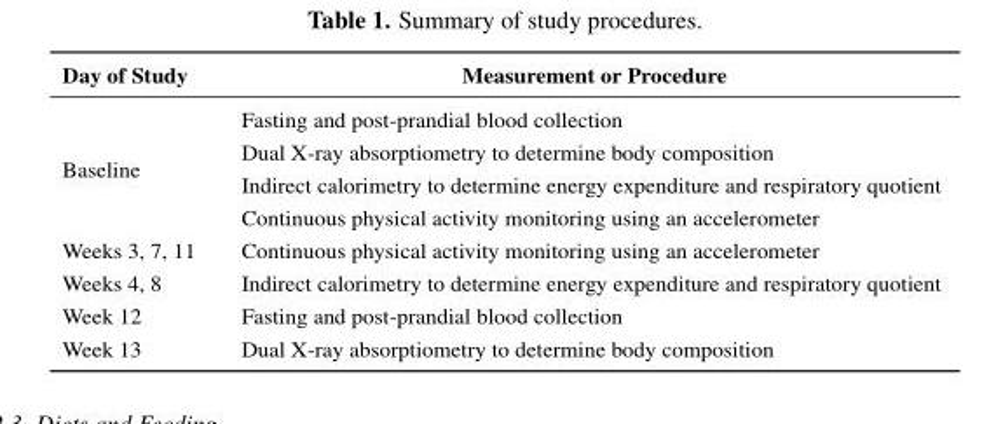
<table><thead><tr><td>Day of Study</td><td>Measurement or Procedure</td></tr></thead><tbody><tr><td rowspan="4">Baseline</td><td>Fasting and post-prandial blood collection</td></tr><tr><td>Dual X-ray absorptiometry to determine body composition</td></tr><tr><td>Indirect calorimetry to determine energy expenditure and respiratory quotient</td></tr><tr><td>Continuous physical activity monitoring using an accelerometer</td></tr><tr><td>Weeks 3, 7, 11</td><td>Continuous physical activity monitoring using an accelerometer</td></tr><tr><td>Weeks 4, 8</td><td>Indirect calorimetry to determine energy expenditure and respiratory quotient</td></tr><tr><td>Week 12</td><td>Fasting and post-prandial blood collection</td></tr><tr><td>Week 13</td><td>Dual X-ray absorptiometry to determine body composition</td></tr></tbody></table>